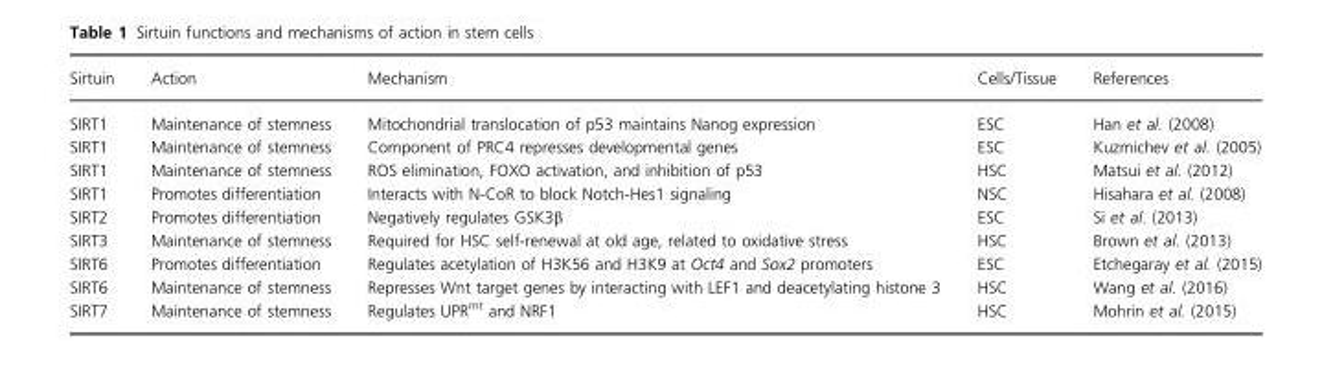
<table><thead><tr><td>Sirtuin</td><td>Action</td><td>Mechanism</td><td>Cells/Tissue</td><td>References</td></tr></thead><tbody><tr><td>SIRT1</td><td>Maintenance of stemness</td><td>Mitochondrial translocation of p53 maintains Nanog expression</td><td>ESC</td><td>Han et al. (2008)</td></tr><tr><td>SIRT1</td><td>Maintenance of stemness</td><td>Component of PRC4 represses developmental genes</td><td>ESC</td><td>Kuzmichev et al. (2005)</td></tr><tr><td>SIRT1</td><td>Maintenance of stemness</td><td>ROS elimination, FOXO activation, and inhibition of p53</td><td>HSC</td><td>Matsui et al. (2012)</td></tr><tr><td>SIRT1</td><td>Promotes differentiation</td><td>Interacts with N-CoR to block Notch-Hes1 signaling</td><td>NSC</td><td>Hisahara et al. (2008)</td></tr><tr><td>SIRT2</td><td>Promotes differentiation</td><td>Negatively regulates GSK3β</td><td>ESC</td><td>Si et al. (2013)</td></tr><tr><td>SIRT3</td><td>Maintenance of stemness</td><td>Required for HSC self-renewal at old age, related to oxidative stress</td><td>HSC</td><td>Brown et al. (2013)</td></tr><tr><td>SIRT6</td><td>Promotes differentiation</td><td>Regulates acetylation of H3K56 and H3K9 at Oct4 and Sox2 promoters</td><td>ESC</td><td>Etchegaray et al. (2015)</td></tr><tr><td>SIRT6</td><td>Maintenance of stemness</td><td>Represses Wnt target genes by interacting with LEF1 and deacetylating histone 3</td><td>HSC</td><td>Wang et al. (2016)</td></tr><tr><td>SIRT7</td><td>Maintenance of stemness</td><td>Regulates UPR<sup>mt</sup> and NRF1</td><td>HSC</td><td>Mohrin et al. (2015)</td></tr></tbody></table>